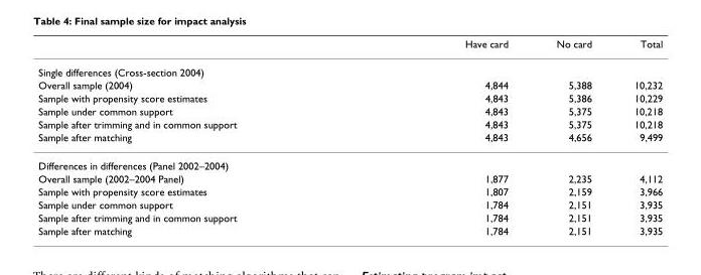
<table><thead><tr><td></td><td>Have card</td><td>No card</td><td>Total</td></tr></thead><tbody><tr><td colspan="4">Single differences (Cross-section 2004)</td></tr><tr><td>Overall sample (2004)</td><td>4,844</td><td>5,388</td><td>10,232</td></tr><tr><td>Sample with propensity score estimates</td><td>4,843</td><td>5,386</td><td>10,229</td></tr><tr><td>Sample under common support</td><td>4,843</td><td>5,375</td><td>10,218</td></tr><tr><td>Sample after trimming and in common support</td><td>4,843</td><td>5,375</td><td>10,218</td></tr><tr><td>Sample after matching</td><td>4,843</td><td>4,656</td><td>9,499</td></tr><tr><td colspan="4">Differences in differences (Panel 2002–2004)</td></tr><tr><td>Overall sample (2002–2004 Panel)</td><td>1,877</td><td>2,235</td><td>4,112</td></tr><tr><td>Sample with propensity score estimates</td><td>1,807</td><td>2,159</td><td>3,966</td></tr><tr><td>Sample under common support</td><td>1,784</td><td>2,151</td><td>3,935</td></tr><tr><td>Sample after trimming and in common support</td><td>1,784</td><td>2,151</td><td>3,935</td></tr><tr><td>Sample after matching</td><td>1,784</td><td>2,151</td><td>3,935</td></tr></tbody></table>